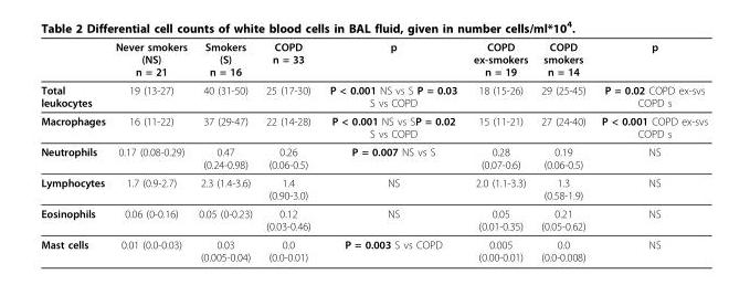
<table><thead><tr><td></td><td>Never smokers (NS) n = 21</td><td>Smokers (S) n = 16</td><td>COPD n = 33</td><td>p</td><td>COPD ex-smokers n = 19</td><td>COPD smokers n = 14</td><td>p</td></tr></thead><tbody><tr><td>Total leukocytes</td><td>19 (13-27)</td><td>40 (31-50)</td><td>25 (17-30)</td><td>P &lt; 0.001 NS vs S P = 0.03 S vs COPD</td><td>18 (15-26)</td><td>29 (25-45)</td><td>P = 0.02 COPD ex-svs COPD s</td></tr><tr><td>Macrophages</td><td>16 (11-22)</td><td>37 (29-47)</td><td>22 (14-28)</td><td>P &lt; 0.001 NS vs SP = 0.02 S vs COPD</td><td>15 (11-21)</td><td>27 (24-40)</td><td>P &lt; 0.001 COPD ex-svs COPD s</td></tr><tr><td>Neutrophils</td><td>0.17 (0.08-0.29)</td><td>0.47 (0.24-0.98)</td><td>0.26 (0.06-0.5)</td><td>P = 0.007 NS vs S</td><td>0.28 (0.07-0.6)</td><td>0.19 (0.06-0.5)</td><td>NS</td></tr><tr><td>Lymphocytes</td><td>1.7 (0.9-2.7)</td><td>2.3 (1.4-3.6)</td><td>1.4 (0.90-3.0)</td><td>NS</td><td>2.0 (1.1-3.3)</td><td>1.3 (0.58-1.9)</td><td>NS</td></tr><tr><td>Eosinophils</td><td>0.06 (0-0.16)</td><td>0.05 (0-0.23)</td><td>0.12 (0.03-0.46)</td><td>NS</td><td>0.05 (0.01-0.35)</td><td>0.21 (0.05-0.62)</td><td>NS</td></tr><tr><td>Mast cells</td><td>0.01 (0.0-0.03)</td><td>0.03 (0.005-0.04)</td><td>0.0 (0.0-0.01)</td><td>P = 0.003 S vs COPD</td><td>0.005 (0.00-0.01)</td><td>0.0 (0.0-0.008)</td><td>NS</td></tr></tbody></table>